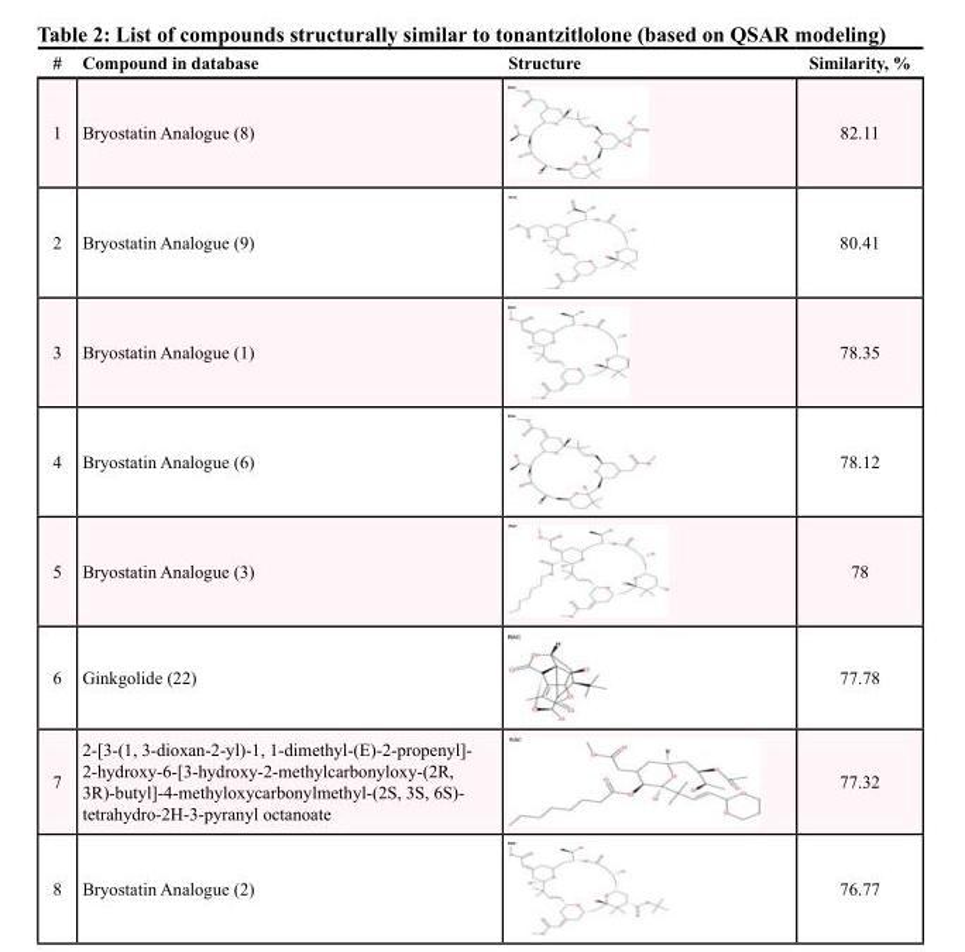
<table><thead><tr><td>#</td><td>Compound in database</td><td>Structure</td><td>Similarity, %</td></tr></thead><tbody><tr><td>1</td><td>Bryostatin Analogue (8)</td><td></td><td>82.11</td></tr><tr><td>2</td><td>Bryostatin Analogue (9)</td><td></td><td>80.41</td></tr><tr><td>3</td><td>Bryostatin Analogue (1)</td><td></td><td>78.35</td></tr><tr><td>4</td><td>Bryostatin Analogue (6)</td><td></td><td>78.12</td></tr><tr><td>5</td><td>Bryostatin Analogue (3)</td><td></td><td>78</td></tr><tr><td>6</td><td>Ginkgolide (22)</td><td></td><td>77.78</td></tr><tr><td>7</td><td>2-[3-(1, 3-dioxan-2-yl)-1, 1-dimethyl-(E)-2-propenyl]- 2-hydroxy-6-[3-hydroxy-2-methylcarbonyloxy-(2R, 3R)-butyl]-4-methyloxycarbonylmethyl-(2S, 3S, 6S)- tetrahydro-2H-3-pyranyl octanoate</td><td></td><td>77.32</td></tr><tr><td>8</td><td>Bryostatin Analogue (2)</td><td></td><td>76.77</td></tr></tbody></table>